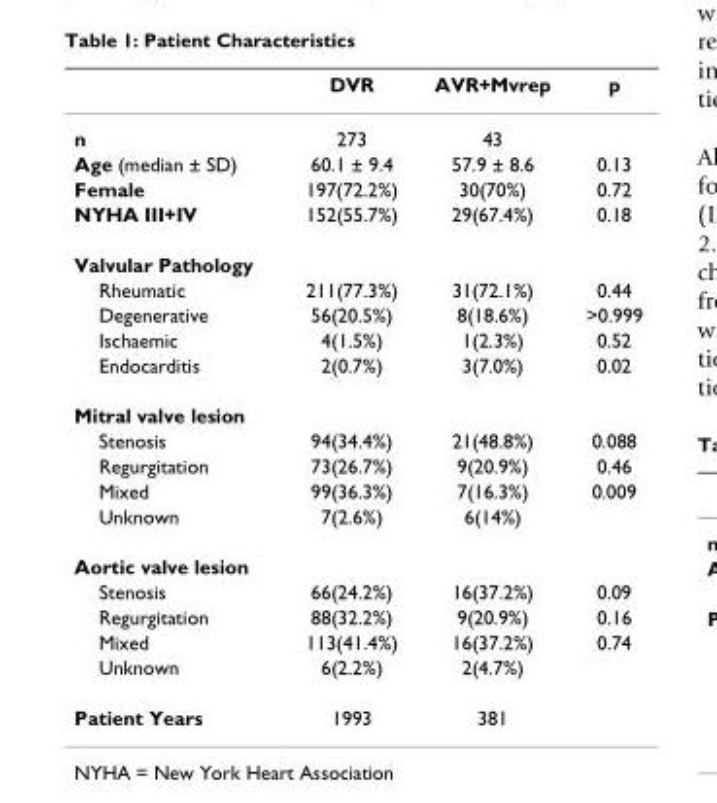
<table><thead><tr><td></td><td>DVR</td><td>AVR+Mvrep</td><td>p</td></tr></thead><tbody><tr><td>n</td><td>273</td><td>43</td><td></td></tr><tr><td>Age (median ± SD)</td><td>60.1 ± 9.4</td><td>57.9 ± 8.6</td><td>0.13</td></tr><tr><td>Female</td><td>197(72.2%)</td><td>30(70%)</td><td>0.72</td></tr><tr><td>NYHA III+IV</td><td>152(55.7%)</td><td>29(67.4%)</td><td>0.18</td></tr><tr><td colspan="4">Valvular Pathology</td></tr><tr><td>Rheumatic</td><td>211(77.3%)</td><td>31(72.1%)</td><td>0.44</td></tr><tr><td>Degenerative</td><td>56(20.5%)</td><td>8(18.6%)</td><td>&gt;0.999</td></tr><tr><td>Ischaemic</td><td>4(1.5%)</td><td>1(2.3%)</td><td>0.52</td></tr><tr><td>Endocarditis</td><td>2(0.7%)</td><td>3(7.0%)</td><td>0.02</td></tr><tr><td colspan="4">Mitral valve lesion</td></tr><tr><td>Stenosis</td><td>94(34.4%)</td><td>21(48.8%)</td><td>0.088</td></tr><tr><td>Regurgitation</td><td>73(26.7%)</td><td>9(20.9%)</td><td>0.46</td></tr><tr><td>Mixed</td><td>99(36.3%)</td><td>7(16.3%)</td><td>0.009</td></tr><tr><td>Unknown</td><td>7(2.6%)</td><td>6(14%)</td><td></td></tr><tr><td colspan="4">Aortic valve lesion</td></tr><tr><td>Stenosis</td><td>66(24.2%)</td><td>16(37.2%)</td><td>0.09</td></tr><tr><td>Regurgitation</td><td>88(32.2%)</td><td>9(20.9%)</td><td>0.16</td></tr><tr><td>Mixed</td><td>113(41.4%)</td><td>16(37.2%)</td><td>0.74</td></tr><tr><td>Unknown</td><td>6(2.2%)</td><td>2(4.7%)</td><td></td></tr><tr><td>Patient Years</td><td>1993</td><td>381</td><td></td></tr></tbody></table>